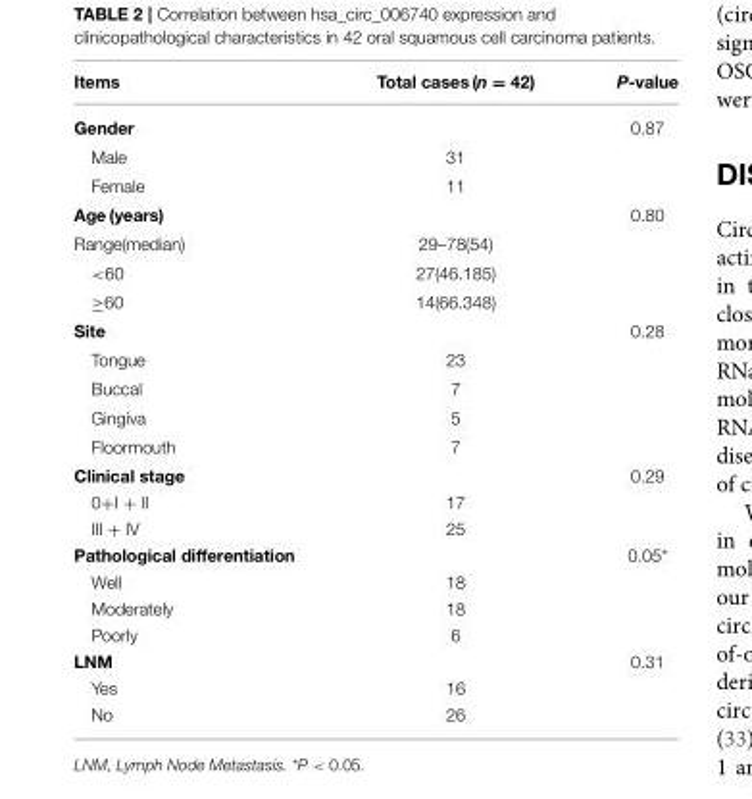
<table><thead><tr><td>Items</td><td>Total cases (n = 42)</td><td>P-value</td></tr></thead><tbody><tr><td>Gender</td><td></td><td>0.87</td></tr><tr><td>Male</td><td>31</td><td></td></tr><tr><td>Female</td><td>11</td><td></td></tr><tr><td>Age (years)</td><td></td><td>0.80</td></tr><tr><td>Range(median)</td><td>29–78(54)</td><td></td></tr><tr><td>&lt;60</td><td>27(46.185)</td><td></td></tr><tr><td>≥60</td><td>14(66.348)</td><td></td></tr><tr><td>Site</td><td></td><td>0.28</td></tr><tr><td>Tongue</td><td>23</td><td></td></tr><tr><td>Buccal</td><td>7</td><td></td></tr><tr><td>Gingiva</td><td>5</td><td></td></tr><tr><td>Floormouth</td><td>7</td><td></td></tr><tr><td>Clinical stage</td><td></td><td>0.29</td></tr><tr><td>0+I + II</td><td>17</td><td></td></tr><tr><td>III + IV</td><td>25</td><td></td></tr><tr><td>Pathological differentiation</td><td></td><td>0.05*</td></tr><tr><td>Well</td><td>18</td><td></td></tr><tr><td>Moderately</td><td>18</td><td></td></tr><tr><td>Poorly</td><td>6</td><td></td></tr><tr><td>LNM</td><td></td><td>0.31</td></tr><tr><td>Yes</td><td>16</td><td></td></tr><tr><td>No</td><td>26</td><td></td></tr></tbody></table>